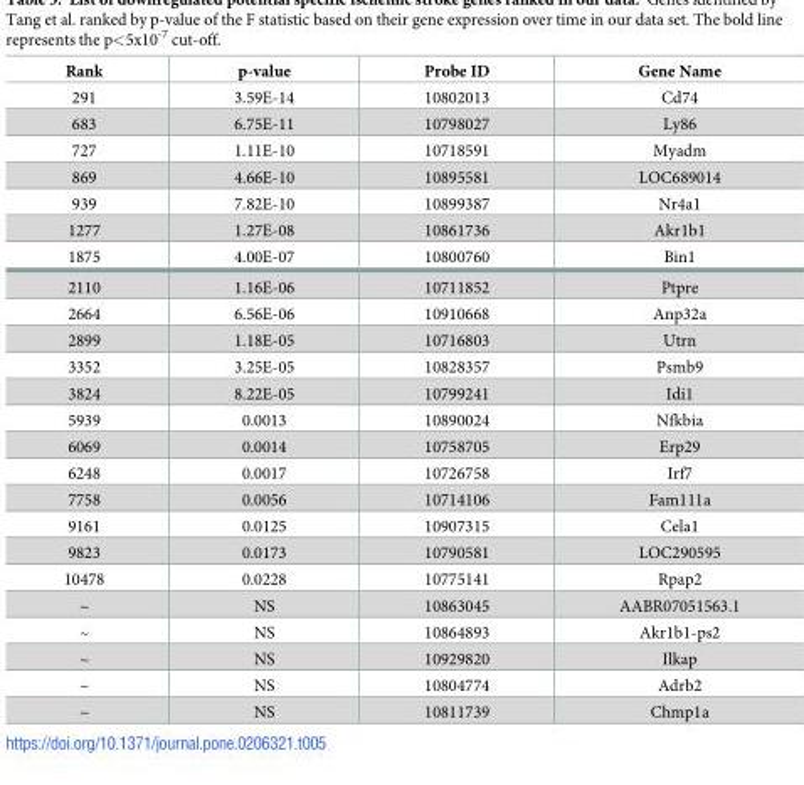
<table><thead><tr><td>Rank</td><td>p-value</td><td>Probe ID</td><td>Gene Name</td></tr></thead><tbody><tr><td>291</td><td>3.59E-14</td><td>10802013</td><td>Cd74</td></tr><tr><td>683</td><td>6.75E-11</td><td>10798027</td><td>Ly86</td></tr><tr><td>727</td><td>1.11E-10</td><td>10718591</td><td>Myadm</td></tr><tr><td>869</td><td>4.66E-10</td><td>10895581</td><td>LOC689014</td></tr><tr><td>939</td><td>7.82E-10</td><td>10899387</td><td>Nr4a1</td></tr><tr><td>1277</td><td>1.27E-08</td><td>10861736</td><td>Akr1b1</td></tr><tr><td>1875</td><td>4.00E-07</td><td>10800760</td><td>Bin1</td></tr><tr><td>2110</td><td>1.16E-06</td><td>10711852</td><td>Ptpre</td></tr><tr><td>2664</td><td>6.56E-06</td><td>10910668</td><td>Anp32a</td></tr><tr><td>2899</td><td>1.18E-05</td><td>10716803</td><td>Utrn</td></tr><tr><td>3352</td><td>3.25E-05</td><td>10828357</td><td>Psmb9</td></tr><tr><td>3824</td><td>8.22E-05</td><td>10799241</td><td>Idi1</td></tr><tr><td>5939</td><td>0.0013</td><td>10890024</td><td>Nfkbia</td></tr><tr><td>6069</td><td>0.0014</td><td>10758705</td><td>Erp29</td></tr><tr><td>6248</td><td>0.0017</td><td>10726758</td><td>Irf7</td></tr><tr><td>7758</td><td>0.0056</td><td>10714106</td><td>Fam111a</td></tr><tr><td>9161</td><td>0.0125</td><td>10907315</td><td>Cela1</td></tr><tr><td>9823</td><td>0.0173</td><td>10790581</td><td>LOC290595</td></tr><tr><td>10478</td><td>0.0228</td><td>10775141</td><td>Rpap2</td></tr><tr><td>~</td><td>NS</td><td>10863045</td><td>AABR07051563.1</td></tr><tr><td>~</td><td>NS</td><td>10864893</td><td>Akr1b1-ps2</td></tr><tr><td>~</td><td>NS</td><td>10929820</td><td>Ilkap</td></tr><tr><td>~</td><td>NS</td><td>10804774</td><td>Adrb2</td></tr><tr><td>~</td><td>NS</td><td>10811739</td><td>Chmp1a</td></tr></tbody></table>